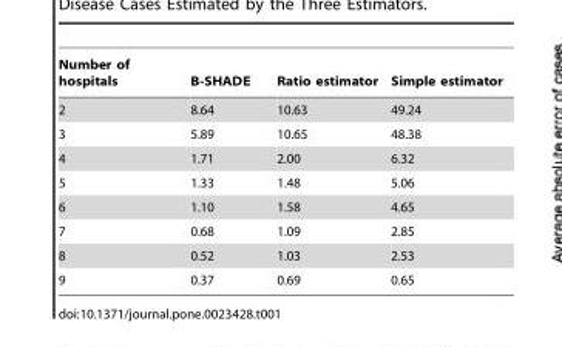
<table><thead><tr><td>Number of hospitals</td><td>B-SHADE</td><td>Ratio estimator</td><td>Simple estimator</td></tr></thead><tbody><tr><td>2</td><td>8.64</td><td>10.63</td><td>49.24</td></tr><tr><td>3</td><td>5.89</td><td>10.65</td><td>48.38</td></tr><tr><td>4</td><td>1.71</td><td>2.00</td><td>6.32</td></tr><tr><td>5</td><td>1.33</td><td>1.48</td><td>5.06</td></tr><tr><td>6</td><td>1.10</td><td>1.58</td><td>4.65</td></tr><tr><td>7</td><td>0.68</td><td>1.09</td><td>2.85</td></tr><tr><td>8</td><td>0.52</td><td>1.03</td><td>2.53</td></tr><tr><td>9</td><td>0.37</td><td>0.69</td><td>0.65</td></tr></tbody></table>